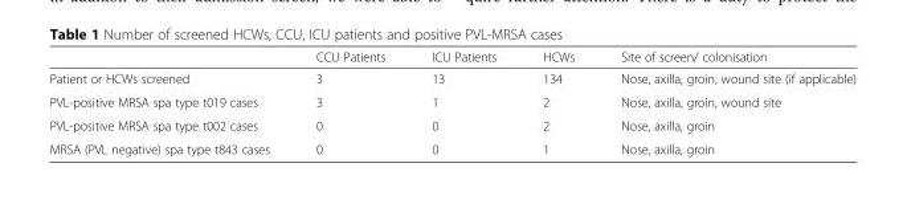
<table><thead><tr><td></td><td>CCU Patients</td><td>ICU Patients</td><td>HCWs</td><td>Site of screen/ colonisation</td></tr></thead><tbody><tr><td>Patient or HCWs screened</td><td>3</td><td>13</td><td>134</td><td>Nose, axilla, groin, wound site (if applicable)</td></tr><tr><td>PVL-positive MRSA spa type t019 cases</td><td>3</td><td>1</td><td>2</td><td>Nose, axilla, groin, wound site</td></tr><tr><td>PVL-positive MRSA spa type t002 cases</td><td>0</td><td>0</td><td>2</td><td>Nose, axilla, groin</td></tr><tr><td>MRSA (PVL negative) spa type t843 cases</td><td>0</td><td>0</td><td>1</td><td>Nose, axilla, groin</td></tr></tbody></table>